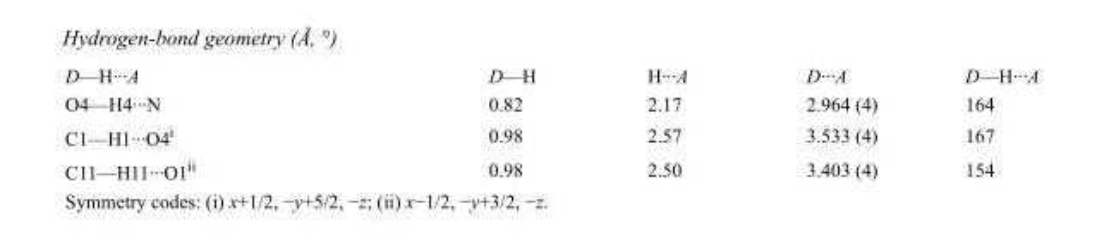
<table><tbody><tr><td>D—H···A</td><td>D—H</td><td>H···A</td><td>D···A</td><td>D—H···A</td></tr><tr><td>O4—H4···N</td><td>0.82</td><td>2.17</td><td>2.964 (4)</td><td>164</td></tr><tr><td>C1—H1···O4<sup>i</sup></td><td>0.98</td><td>2.57</td><td>3.533 (4)</td><td>167</td></tr><tr><td>C11—H11···O1<sup>ii</sup></td><td>0.98</td><td>2.50</td><td>3.403 (4)</td><td>154</td></tr></tbody></table>